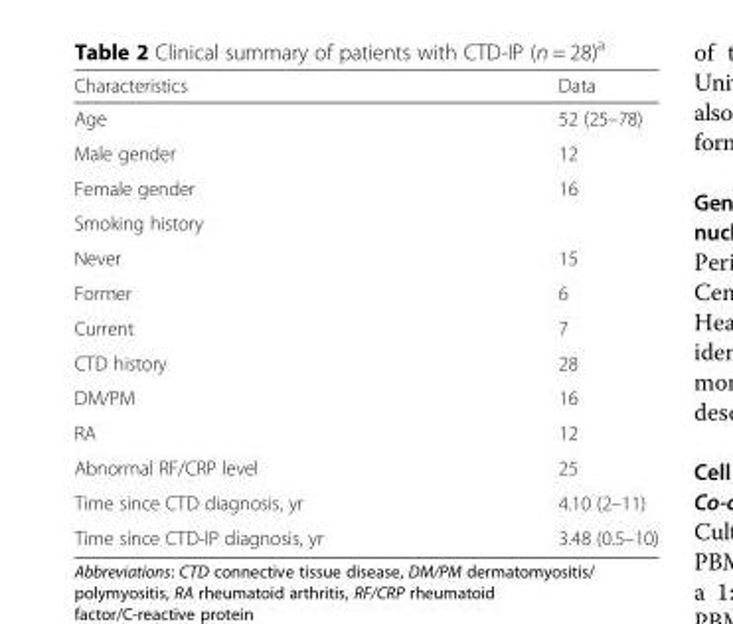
<table><thead><tr><td>Characteristics</td><td>Data</td></tr></thead><tbody><tr><td>Age</td><td>52 (25–78)</td></tr><tr><td>Male gender</td><td>12</td></tr><tr><td>Female gender</td><td>16</td></tr><tr><td colspan="2">Smoking history</td></tr><tr><td>Never</td><td>15</td></tr><tr><td>Former</td><td>6</td></tr><tr><td>Current</td><td>7</td></tr><tr><td>CTD history</td><td>28</td></tr><tr><td>DM/PM</td><td>16</td></tr><tr><td>RA</td><td>12</td></tr><tr><td>Abnormal RF/CRP level</td><td>25</td></tr><tr><td>Time since CTD diagnosis, yr</td><td>4.10 (2–11)</td></tr><tr><td>Time since CTD-IP diagnosis, yr</td><td>3.48 (0.5–10)</td></tr></tbody></table>